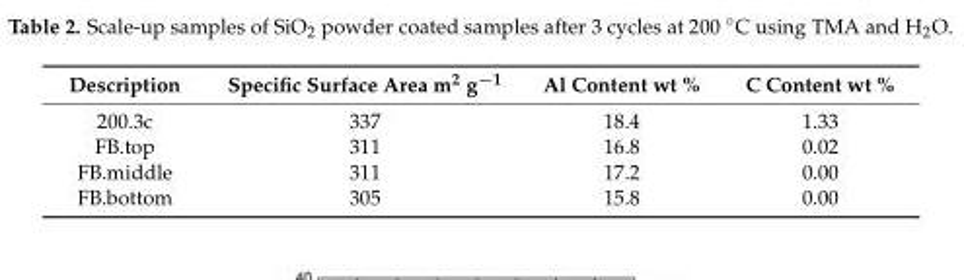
<table><thead><tr><td>Description</td><td>Specific Surface Area m<sup>2</sup> g<sup>−1</sup></td><td>Al Content wt %</td><td>C Content wt %</td></tr></thead><tbody><tr><td>200.3c</td><td>337</td><td>18.4</td><td>1.33</td></tr><tr><td>FB.top</td><td>311</td><td>16.8</td><td>0.02</td></tr><tr><td>FB.middle</td><td>311</td><td>17.2</td><td>0.00</td></tr><tr><td>FB.bottom</td><td>305</td><td>15.8</td><td>0.00</td></tr></tbody></table>